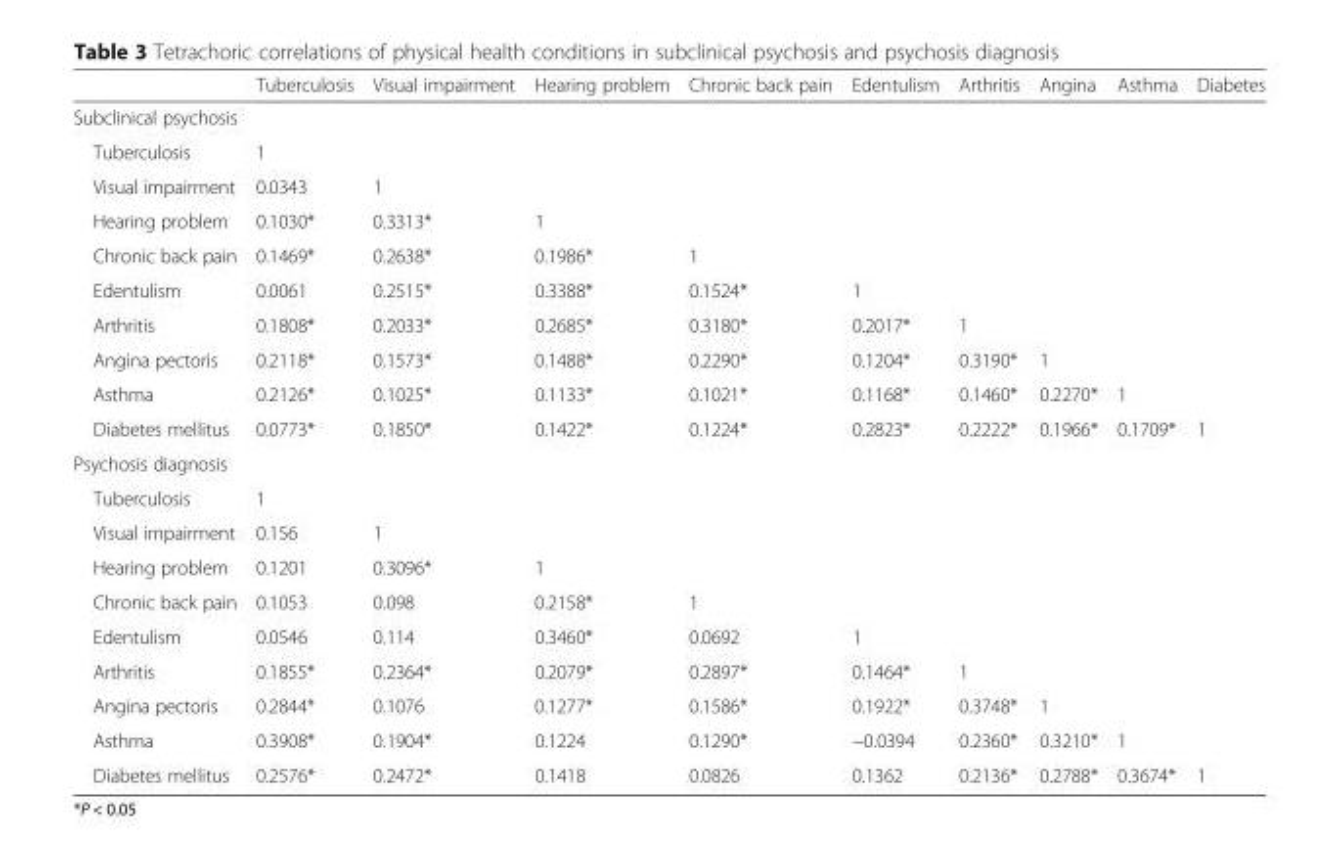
<table><thead><tr><td></td><td>Tuberculosis</td><td>Visual impairment</td><td>Hearing problem</td><td>Chronic back pain</td><td>Edentulism</td><td>Arthritis</td><td>Angina</td><td>Asthma</td><td>Diabetes</td></tr></thead><tbody><tr><td colspan="10">Subclinical psychosis</td></tr><tr><td>Tuberculosis</td><td>1</td><td></td><td></td><td></td><td></td><td></td><td></td><td></td><td></td></tr><tr><td>Visual impairment</td><td>0.0343</td><td>1</td><td></td><td></td><td></td><td></td><td></td><td></td><td></td></tr><tr><td>Hearing problem</td><td>0.1030*</td><td>0.3313*</td><td>1</td><td></td><td></td><td></td><td></td><td></td><td></td></tr><tr><td>Chronic back pain</td><td>0.1469*</td><td>0.2638*</td><td>0.1986*</td><td>1</td><td></td><td></td><td></td><td></td><td></td></tr><tr><td>Edentulism</td><td>0.0061</td><td>0.2515*</td><td>0.3388*</td><td>0.1524*</td><td>1</td><td></td><td></td><td></td><td></td></tr><tr><td>Arthritis</td><td>0.1808*</td><td>0.2033*</td><td>0.2685*</td><td>0.3180*</td><td>0.2017*</td><td>1</td><td></td><td></td><td></td></tr><tr><td>Angina pectoris</td><td>0.2118*</td><td>0.1573*</td><td>0.1488*</td><td>0.2290*</td><td>0.1204*</td><td>0.3190*</td><td>1</td><td></td><td></td></tr><tr><td>Asthma</td><td>0.2126*</td><td>0.1025*</td><td>0.1133*</td><td>0.1021*</td><td>0.1168*</td><td>0.1460*</td><td>0.2270*</td><td>1</td><td></td></tr><tr><td>Diabetes mellitus</td><td>0.0773*</td><td>0.1850*</td><td>0.1422*</td><td>0.1224*</td><td>0.2823*</td><td>0.2222*</td><td>0.1966*</td><td>0.1709*</td><td>1</td></tr><tr><td colspan="10">Psychosis diagnosis</td></tr><tr><td>Tuberculosis</td><td>1</td><td></td><td></td><td></td><td></td><td></td><td></td><td></td><td></td></tr><tr><td>Visual impairment</td><td>0.156</td><td>1</td><td></td><td></td><td></td><td></td><td></td><td></td><td></td></tr><tr><td>Hearing problem</td><td>0.1201</td><td>0.3096*</td><td>1</td><td></td><td></td><td></td><td></td><td></td><td></td></tr><tr><td>Chronic back pain</td><td>0.1053</td><td>0.098</td><td>0.2158*</td><td>1</td><td></td><td></td><td></td><td></td><td></td></tr><tr><td>Edentulism</td><td>0.0546</td><td>0.114</td><td>0.3460*</td><td>0.0692</td><td>1</td><td></td><td></td><td></td><td></td></tr><tr><td>Arthritis</td><td>0.1855*</td><td>0.2364*</td><td>0.2079*</td><td>0.2897*</td><td>0.1464*</td><td>1</td><td></td><td></td><td></td></tr><tr><td>Angina pectoris</td><td>0.2844*</td><td>0.1076</td><td>0.1277*</td><td>0.1586*</td><td>0.1922*</td><td>0.3748*</td><td>1</td><td></td><td></td></tr><tr><td>Asthma</td><td>0.3908*</td><td>0.1904*</td><td>0.1224</td><td>0.1290*</td><td>−0.0394</td><td>0.2360*</td><td>0.3210*</td><td>1</td><td></td></tr><tr><td>Diabetes mellitus</td><td>0.2576*</td><td>0.2472*</td><td>0.1418</td><td>0.0826</td><td>0.1362</td><td>0.2136*</td><td>0.2788*</td><td>0.3674*</td><td>1</td></tr></tbody></table>